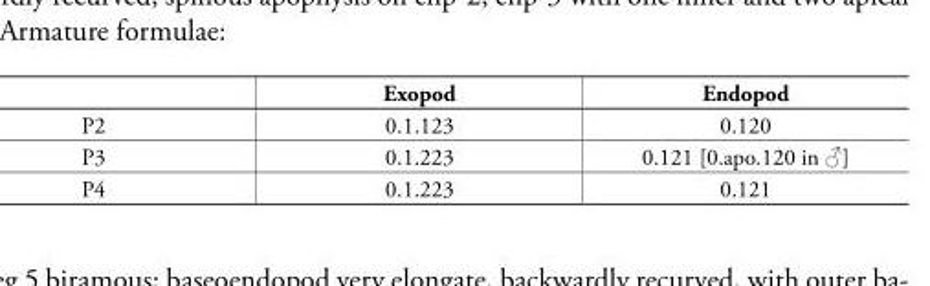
<table><thead><tr><td></td><td>Exopod</td><td>Endopod</td></tr></thead><tbody><tr><td>P2</td><td>0.1.123</td><td>0.120</td></tr><tr><td>P3</td><td>0.1.223</td><td>0.121 [0.apo.120 in ♂]</td></tr><tr><td>P4</td><td>0.1.223</td><td>0.121</td></tr></tbody></table>